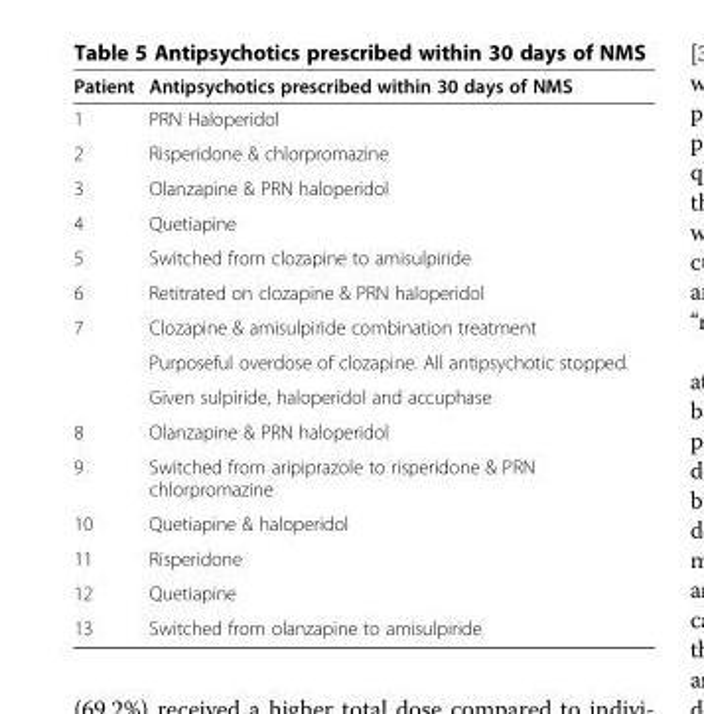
<table><thead><tr><td>Patient</td><td>Antipsychotics prescribed within 30 days of NMS</td></tr></thead><tbody><tr><td>1</td><td>PRN Haloperidol</td></tr><tr><td>2</td><td>Risperidone &amp; chlorpromazine</td></tr><tr><td>3</td><td>Olanzapine &amp; PRN haloperidol</td></tr><tr><td>4</td><td>Quetiapine</td></tr><tr><td>5</td><td>Switched from clozapine to amisulpiride</td></tr><tr><td>6</td><td>Retitrated on clozapine &amp; PRN haloperidol</td></tr><tr><td rowspan="3">7</td><td>Clozapine &amp; amisulpiride combination treatment</td></tr><tr><td>Purposeful overdose of clozapine. All antipsychotic stopped.</td></tr><tr><td>Given sulpiride, haloperidol and accuphase</td></tr><tr><td>8</td><td>Olanzapine &amp; PRN haloperidol</td></tr><tr><td>9</td><td>Switched from aripiprazole to risperidone &amp; PRN chlorpromazine</td></tr><tr><td>10</td><td>Quetiapine &amp; haloperidol</td></tr><tr><td>11</td><td>Risperidone</td></tr><tr><td>12</td><td>Quetiapine</td></tr><tr><td>13</td><td>Switched from olanzapine to amisulpiride</td></tr></tbody></table>